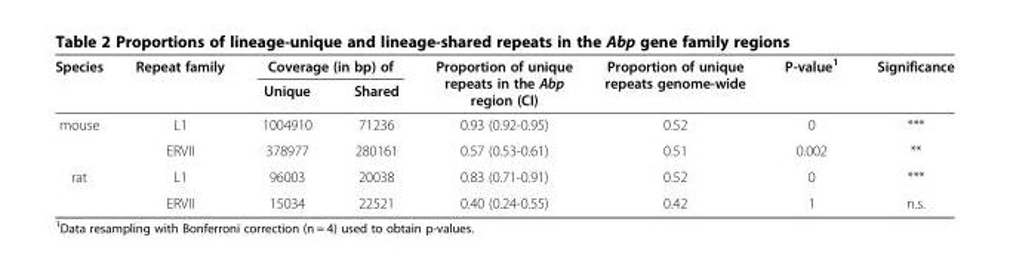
<table><thead><tr><td rowspan="2">Species</td><td rowspan="2">Repeat family</td><td colspan="2">Coverage (in bp) of</td><td rowspan="2">Proportion of unique repeats in the Abp region (CI)</td><td rowspan="2">Proportion of unique repeats genome-wide</td><td rowspan="2">P-value<sup>1</sup></td><td rowspan="2">Significance</td></tr><tr><td>Unique</td><td>Shared</td></tr></thead><tbody><tr><td rowspan="2">mouse</td><td>L1</td><td>1004910</td><td>71236</td><td>0.93 (0.92-0.95)</td><td>0.52</td><td>0</td><td>***</td></tr><tr><td>ERVII</td><td>378977</td><td>280161</td><td>0.57 (0.53-0.61)</td><td>0.51</td><td>0.002</td><td>**</td></tr><tr><td rowspan="2">rat</td><td>L1</td><td>96003</td><td>20038</td><td>0.83 (0.71-0.91)</td><td>0.52</td><td>0</td><td>***</td></tr><tr><td>ERVII</td><td>15034</td><td>22521</td><td>0.40 (0.24-0.55)</td><td>0.42</td><td>1</td><td>n.s.</td></tr></tbody></table>